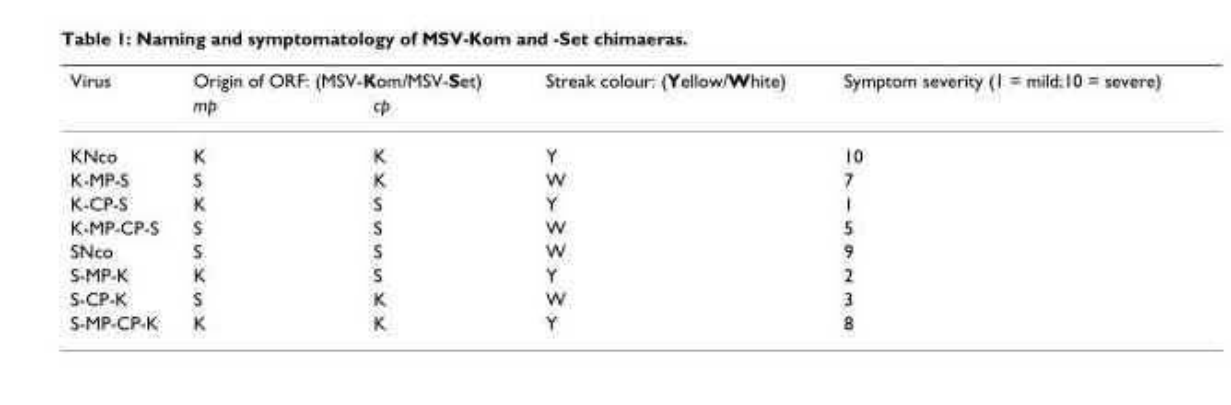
<table><thead><tr><td rowspan="2">Virus</td><td colspan="2">Origin of ORF: (MSV-Kom/MSV-Set)</td><td rowspan="2">Streak colour: (Yellow/White)</td><td rowspan="2">Symptom severity (1 = mild;10 = severe)</td></tr><tr><td>mp</td><td>cp</td></tr></thead><tbody><tr><td>KNco</td><td>K</td><td>K</td><td>Y</td><td>10</td></tr><tr><td>K-MP-S</td><td>S</td><td>K</td><td>W</td><td>7</td></tr><tr><td>K-CP-S</td><td>K</td><td>S</td><td>Y</td><td>1</td></tr><tr><td>K-MP-CP-S</td><td>S</td><td>S</td><td>W</td><td>5</td></tr><tr><td>SNco</td><td>S</td><td>S</td><td>W</td><td>9</td></tr><tr><td>S-MP-K</td><td>K</td><td>S</td><td>Y</td><td>2</td></tr><tr><td>S-CP-K</td><td>S</td><td>K</td><td>W</td><td>3</td></tr><tr><td>S-MP-CP-K</td><td>K</td><td>K</td><td>Y</td><td>8</td></tr></tbody></table>